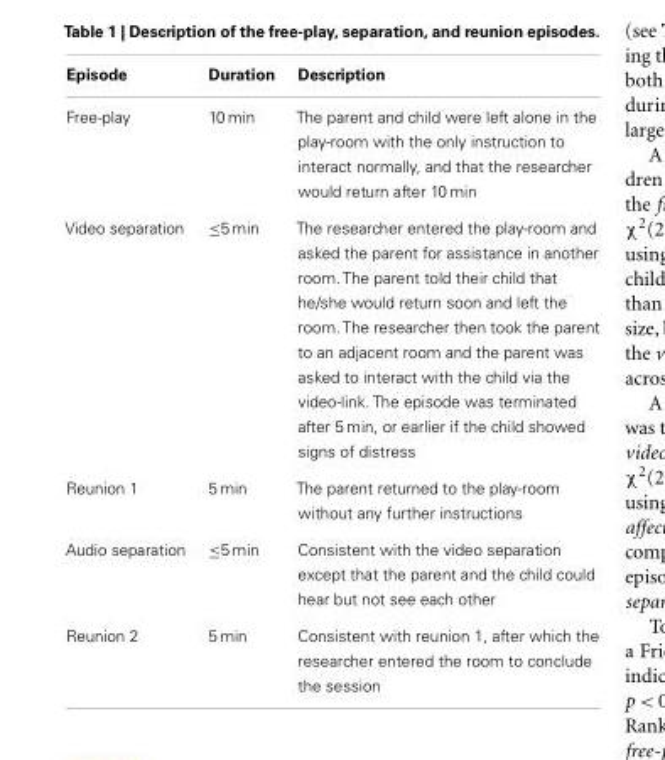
<table><thead><tr><td>Episode</td><td>Duration</td><td>Description</td></tr></thead><tbody><tr><td>Free-play</td><td>10 min</td><td>The parent and child were left alone in the play-room with the only instruction to interact normally, and that the researcher would return after 10 min</td></tr><tr><td>Video separation</td><td>≤5 min</td><td>The researcher entered the play-room and asked the parent for assistance in another room. The parent told their child that he/she would return soon and left the room. The researcher then took the parent to an adjacent room and the parent was asked to interact with the child via the video-link. The episode was terminated after 5 min, or earlier if the child showed signs of distress</td></tr><tr><td>Reunion 1</td><td>5 min</td><td>The parent returned to the play-room without any further instructions</td></tr><tr><td>Audio separation</td><td>≤5 min</td><td>Consistent with the video separation except that the parent and the child could hear but not see each other</td></tr><tr><td>Reunion 2</td><td>5 min</td><td>Consistent with reunion 1, after which the researcher entered the room to conclude the session</td></tr></tbody></table>